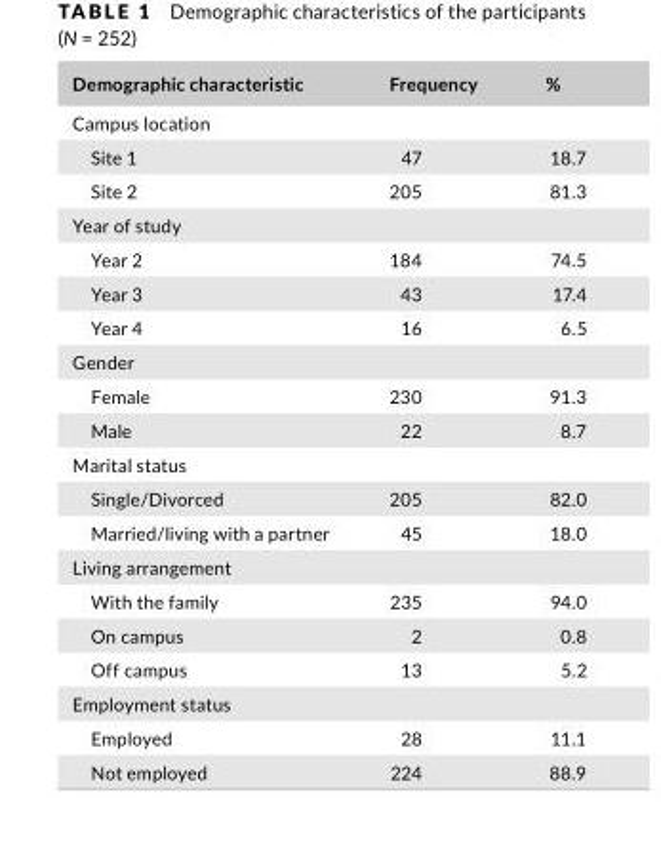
<table><thead><tr><td>Demographic characteristic</td><td>Frequency</td><td>%</td></tr></thead><tbody><tr><td colspan="3">Campus location</td></tr><tr><td>Site 1</td><td>47</td><td>18.7</td></tr><tr><td>Site 2</td><td>205</td><td>81.3</td></tr><tr><td colspan="3">Year of study</td></tr><tr><td>Year 2</td><td>184</td><td>74.5</td></tr><tr><td>Year 3</td><td>43</td><td>17.4</td></tr><tr><td>Year 4</td><td>16</td><td>6.5</td></tr><tr><td colspan="3">Gender</td></tr><tr><td>Female</td><td>230</td><td>91.3</td></tr><tr><td>Male</td><td>22</td><td>8.7</td></tr><tr><td colspan="3">Marital status</td></tr><tr><td>Single/Divorced</td><td>205</td><td>82.0</td></tr><tr><td>Married/living with a partner</td><td>45</td><td>18.0</td></tr><tr><td colspan="3">Living arrangement</td></tr><tr><td>With the family</td><td>235</td><td>94.0</td></tr><tr><td>On campus</td><td>2</td><td>0.8</td></tr><tr><td>Off campus</td><td>13</td><td>5.2</td></tr><tr><td colspan="3">Employment status</td></tr><tr><td>Employed</td><td>28</td><td>11.1</td></tr><tr><td>Not employed</td><td>224</td><td>88.9</td></tr></tbody></table>